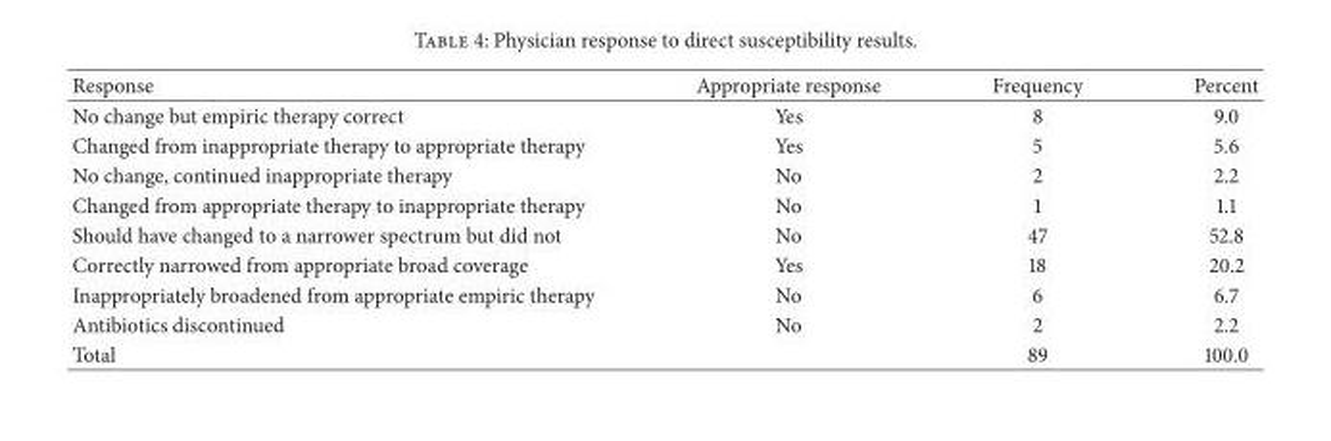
<table><thead><tr><td>Response</td><td>Appropriate response</td><td>Frequency</td><td>Percent</td></tr></thead><tbody><tr><td>No change but empiric therapy correct</td><td>Yes</td><td>8</td><td>9.0</td></tr><tr><td>Changed from inappropriate therapy to appropriate therapy</td><td>Yes</td><td>5</td><td>5.6</td></tr><tr><td>No change, continued inappropriate therapy</td><td>No</td><td>2</td><td>2.2</td></tr><tr><td>Changed from appropriate therapy to inappropriate therapy</td><td>No</td><td>1</td><td>1.1</td></tr><tr><td>Should have changed to a narrower spectrum but did not</td><td>No</td><td>47</td><td>52.8</td></tr><tr><td>Correctly narrowed from appropriate broad coverage</td><td>Yes</td><td>18</td><td>20.2</td></tr><tr><td>Inappropriately broadened from appropriate empiric therapy</td><td>No</td><td>6</td><td>6.7</td></tr><tr><td>Antibiotics discontinued</td><td>No</td><td>2</td><td>2.2</td></tr><tr><td>Total</td><td></td><td>89</td><td>100.0</td></tr></tbody></table>